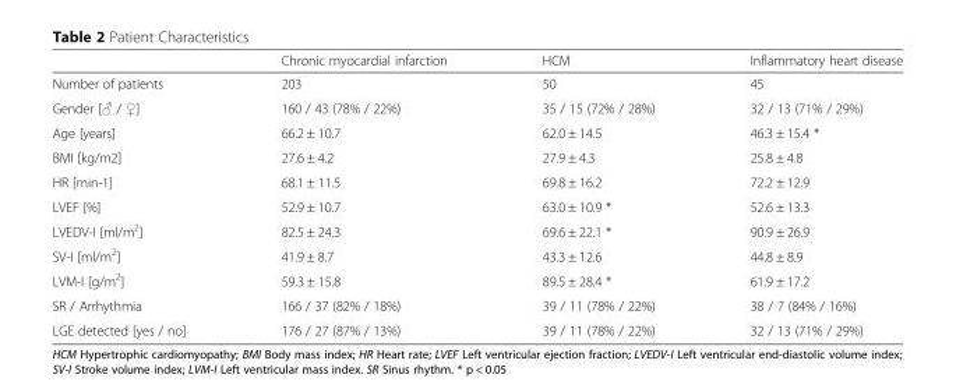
<table><thead><tr><td></td><td>Chronic myocardial infarction</td><td>HCM</td><td>Inflammatory heart disease</td></tr></thead><tbody><tr><td>Number of patients</td><td>203</td><td>50</td><td>45</td></tr><tr><td>Gender [♂ / ♀]</td><td>160 / 43 (78% / 22%)</td><td>35 / 15 (72% / 28%)</td><td>32 / 13 (71% / 29%)</td></tr><tr><td>Age [years]</td><td>66.2 ± 10.7</td><td>62.0 ± 14.5</td><td>46.3 ± 15.4 *</td></tr><tr><td>BMI [kg/m2]</td><td>27.6 ± 4.2</td><td>27.9 ± 4.3</td><td>25.8 ± 4.8</td></tr><tr><td>HR [min-1]</td><td>68.1 ± 11.5</td><td>69.8 ± 16.2</td><td>72.2 ± 12.9</td></tr><tr><td>LVEF [%]</td><td>52.9 ± 10.7</td><td>63.0 ± 10.9 *</td><td>52.6 ± 13.3</td></tr><tr><td>LVEDV-I [ml/m<sup>2</sup>]</td><td>82.5 ± 24.3</td><td>69.6 ± 22.1 *</td><td>90.9 ± 26.9</td></tr><tr><td>SV-I [ml/m<sup>2</sup>]</td><td>41.9 ± 8.7</td><td>43.3 ± 12.6</td><td>44.8 ± 8.9</td></tr><tr><td>LVM-I [g/m<sup>2</sup>]</td><td>59.3 ± 15.8</td><td>89.5 ± 28.4 *</td><td>61.9 ± 17.2</td></tr><tr><td>SR / Arrhythmia</td><td>166 / 37 (82% / 18%)</td><td>39 / 11 (78% / 22%)</td><td>38 / 7 (84% / 16%)</td></tr><tr><td>LGE detected [yes / no]</td><td>176 / 27 (87% / 13%)</td><td>39 / 11 (78% / 22%)</td><td>32 / 13 (71% / 29%)</td></tr></tbody></table>